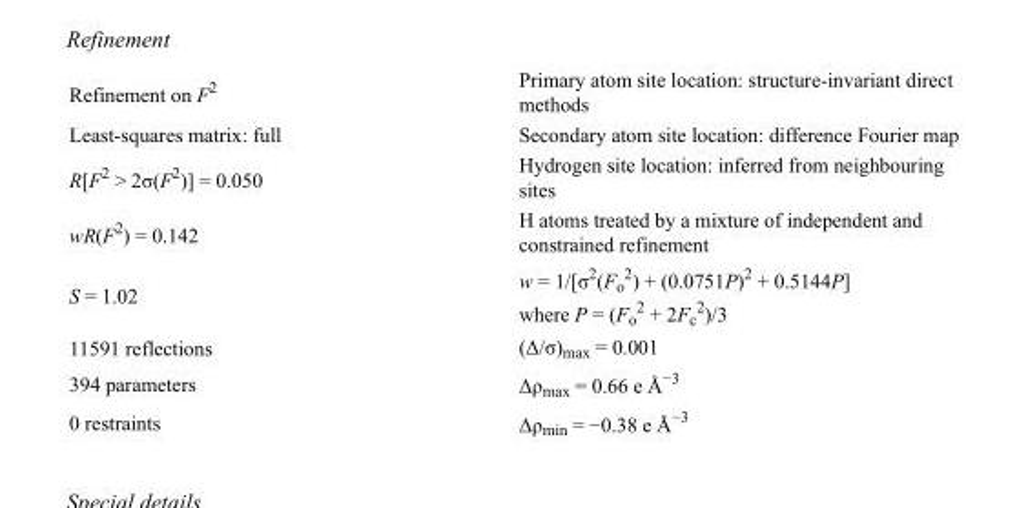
<table><tbody><tr><td>Refinement on F<sup>2</sup></td><td>Primary atom site location: structure-invariant direct methods</td></tr><tr><td>Least-squares matrix: full</td><td>Secondary atom site location: difference Fourier map</td></tr><tr><td>R[F<sup>2</sup> &gt; 2σ(F<sup>2</sup>)] = 0.050</td><td>Hydrogen site location: inferred from neighbouring sites</td></tr><tr><td>wR(F<sup>2</sup>) = 0.142</td><td>H atoms treated by a mixture of independent and constrained refinement</td></tr><tr><td>S = 1.02</td><td>w = 1/[σ<sup>2</sup>(F<sub>o</sub> <sup>2</sup>) + (0.0751P)<sup>2</sup> + 0.5144P] where P = (F<sub>o</sub> <sup>2</sup> + 2F<sub>c</sub> <sup>2</sup>)/3</td></tr><tr><td>11591 reflections</td><td>(Δ/σ)<sub>max</sub> = 0.001</td></tr><tr><td>394 parameters</td><td>Δρ<sub>max</sub> = 0.66 e Å<sup>−3</sup></td></tr><tr><td>0 restraints</td><td>Δρ<sub>min</sub> = −0.38 e Å<sup>−3</sup></td></tr></tbody></table>